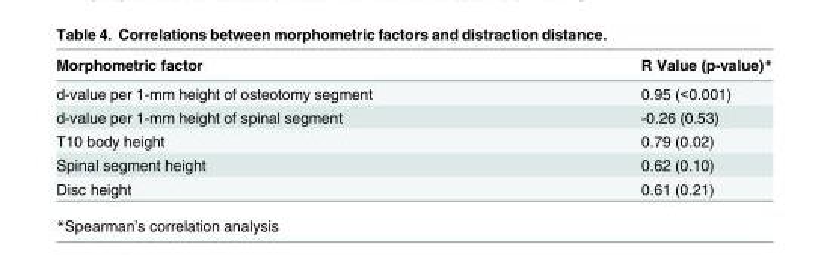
<table><thead><tr><td>Morphometric factor</td><td>R Value (p-value)*</td></tr></thead><tbody><tr><td>d-value per 1-mm height of osteotomy segment</td><td>0.95 (&lt;0.001)</td></tr><tr><td>d-value per 1-mm height of spinal segment</td><td>-0.26 (0.53)</td></tr><tr><td>T10 body height</td><td>0.79 (0.02)</td></tr><tr><td>Spinal segment height</td><td>0.62 (0.10)</td></tr><tr><td>Disc height</td><td>0.61 (0.21)</td></tr></tbody></table>